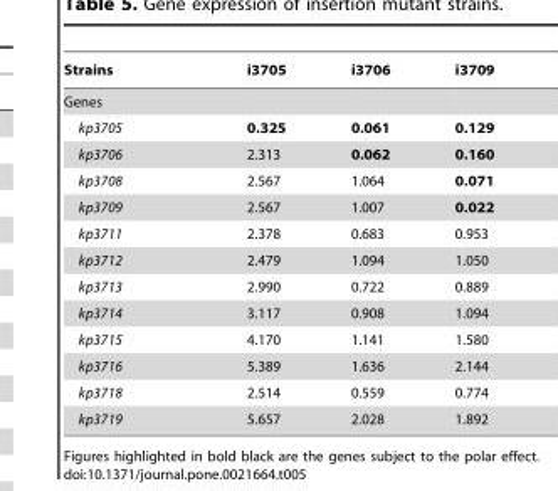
<table><thead><tr><td>Strains</td><td>i3705</td><td>i3706</td><td>i3709</td></tr></thead><tbody><tr><td colspan="4">Genes</td></tr><tr><td>kp3705</td><td>0.325</td><td>0.061</td><td>0.129</td></tr><tr><td>kp3706</td><td>2.313</td><td>0.062</td><td>0.160</td></tr><tr><td>kp3708</td><td>2.567</td><td>1.064</td><td>0.071</td></tr><tr><td>kp3709</td><td>2.567</td><td>1.007</td><td>0.022</td></tr><tr><td>kp3711</td><td>2.378</td><td>0.683</td><td>0.953</td></tr><tr><td>kp3712</td><td>2.479</td><td>1.094</td><td>1.050</td></tr><tr><td>kp3713</td><td>2.990</td><td>0.722</td><td>0.889</td></tr><tr><td>kp3714</td><td>3.117</td><td>0.908</td><td>1.094</td></tr><tr><td>kp3715</td><td>4.170</td><td>1.141</td><td>1.580</td></tr><tr><td>kp3716</td><td>5.389</td><td>1.636</td><td>2.144</td></tr><tr><td>kp3718</td><td>2.514</td><td>0.559</td><td>0.774</td></tr><tr><td>kp3719</td><td>5.657</td><td>2.028</td><td>1.892</td></tr></tbody></table>